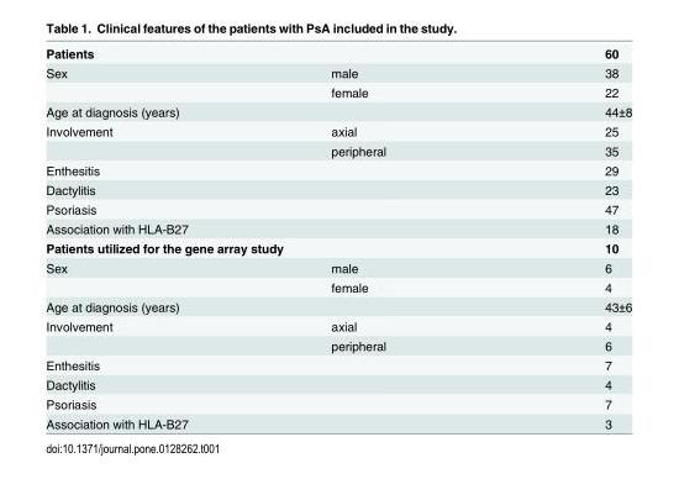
<table><tbody><tr><td colspan="2">Patients</td><td>60</td></tr><tr><td rowspan="2">Sex</td><td>male</td><td>38</td></tr><tr><td>female</td><td>22</td></tr><tr><td colspan="2">Age at diagnosis (years)</td><td>44±8</td></tr><tr><td rowspan="2">Involvement</td><td>axial</td><td>25</td></tr><tr><td>peripheral</td><td>35</td></tr><tr><td colspan="2">Enthesitis</td><td>29</td></tr><tr><td colspan="2">Dactylitis</td><td>23</td></tr><tr><td colspan="2">Psoriasis</td><td>47</td></tr><tr><td colspan="2">Association with HLA-B27</td><td>18</td></tr><tr><td colspan="2">Patients utilized for the gene array study</td><td>10</td></tr><tr><td rowspan="2">Sex</td><td>male</td><td>6</td></tr><tr><td>female</td><td>4</td></tr><tr><td colspan="2">Age at diagnosis (years)</td><td>43±6</td></tr><tr><td rowspan="2">Involvement</td><td>axial</td><td>4</td></tr><tr><td>peripheral</td><td>6</td></tr><tr><td colspan="2">Enthesitis</td><td>7</td></tr><tr><td colspan="2">Dactylitis</td><td>4</td></tr><tr><td colspan="2">Psoriasis</td><td>7</td></tr><tr><td colspan="2">Association with HLA-B27</td><td>3</td></tr></tbody></table>